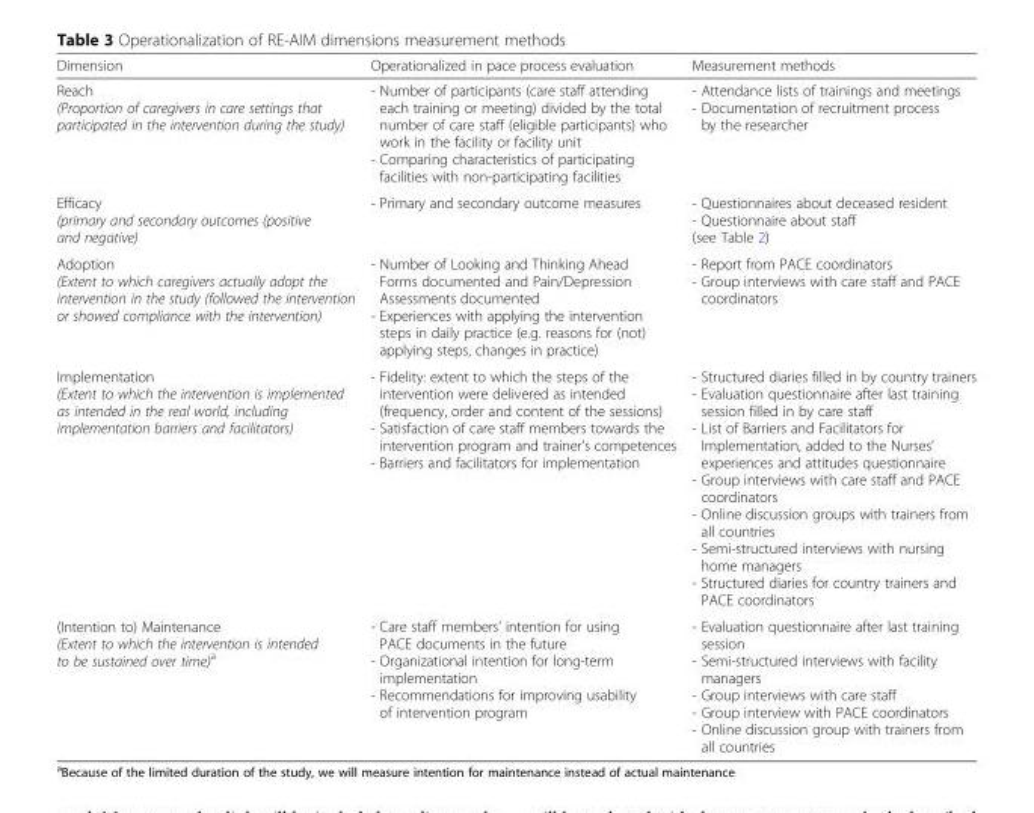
<table><thead><tr><td>Dimension</td><td>Operationalized in pace process evaluation</td><td>Measurement methods</td></tr></thead><tbody><tr><td>Reach (Proportion of caregivers in care settings that participated in the intervention during the study)</td><td>- Number of participants (care staff attending each training or meeting) divided by the total number of care staff (eligible participants) who work in the facility or facility unit - Comparing characteristics of participating facilities with non-participating facilities</td><td>- Attendance lists of trainings and meetings - Documentation of recruitment process by the researcher</td></tr><tr><td>Efficacy (primary and secondary outcomes (positive and negative)</td><td>- Primary and secondary outcome measures</td><td>- Questionnaires about deceased resident - Questionnaire about staff (see Table 2)</td></tr><tr><td>Adoption (Extent to which caregivers actually adopt the intervention in the study (followed the intervention or showed compliance with the intervention)</td><td>- Number of Looking and Thinking Ahead Forms documented and Pain/Depression Assessments documented - Experiences with applying the intervention steps in daily practice (e.g. reasons for (not) applying steps, changes in practice)</td><td>- Report from PACE coordinators - Group interviews with care staff and PACE coordinators</td></tr><tr><td>Implementation (Extent to which the intervention is implemented as intended in the real world, including implementation barriers and facilitators)</td><td>- Fidelity: extent to which the steps of the intervention were delivered as intended (frequency, order and content of the sessions) - Satisfaction of care staff members towards the intervention program and trainer’s competences - Barriers and facilitators for implementation</td><td>- Structured diaries filled in by country trainers - Evaluation questionnaire after last training session filled in by care staff - List of Barriers and Facilitators for Implementation, added to the Nurses’ experiences and attitudes questionnaire - Group interviews with care staff and PACE coordinators - Online discussion groups with trainers from all countries - Semi-structured interviews with nursing home managers - Structured diaries for country trainers and PACE coordinators</td></tr><tr><td>(Intention to) Maintenance (Extent to which the intervention is intended to be sustained over time)<sup>a</sup></td><td>- Care staff members’ intention for using PACE documents in the future - Organizational intention for long-term implementation - Recommendations for improving usability of intervention program</td><td>- Evaluation questionnaire after last training session - Semi-structured interviews with facility managers - Group interviews with care staff - Group interview with PACE coordinators - Online discussion group with trainers from all countries</td></tr></tbody></table>